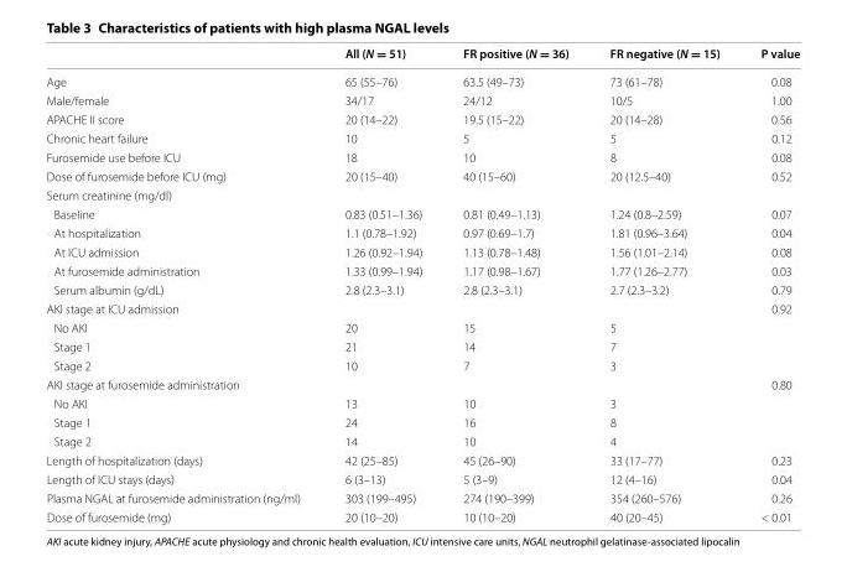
<table><thead><tr><td></td><td>All (N = 51)</td><td>FR positive (N = 36)</td><td>FR negative (N = 15)</td><td>P value</td></tr></thead><tbody><tr><td>Age</td><td>65 (55–76)</td><td>63.5 (49–73)</td><td>73 (61–78)</td><td>0.08</td></tr><tr><td>Male/female</td><td>34/17</td><td>24/12</td><td>10/5</td><td>1.00</td></tr><tr><td>APACHE II score</td><td>20 (14–22)</td><td>19.5 (15–22)</td><td>20 (14–28)</td><td>0.56</td></tr><tr><td>Chronic heart failure</td><td>10</td><td>5</td><td>5</td><td>0.12</td></tr><tr><td>Furosemide use before ICU</td><td>18</td><td>10</td><td>8</td><td>0.08</td></tr><tr><td>Dose of furosemide before ICU (mg)</td><td>20 (15–40)</td><td>40 (15–60)</td><td>20 (12.5–40)</td><td>0.52</td></tr><tr><td colspan="5">Serum creatinine (mg/dl)</td></tr><tr><td>Baseline</td><td>0.83 (0.51–1.36)</td><td>0.81 (0.49–1.13)</td><td>1.24 (0.8–2.59)</td><td>0.07</td></tr><tr><td>At hospitalization</td><td>1.1 (0.78–1.92)</td><td>0.97 (0.69–1.7)</td><td>1.81 (0.96–3.64)</td><td>0.04</td></tr><tr><td>At ICU admission</td><td>1.26 (0.92–1.94)</td><td>1.13 (0.78–1.48)</td><td>1.56 (1.01–2.14)</td><td>0.08</td></tr><tr><td>At furosemide administration</td><td>1.33 (0.99–1.94)</td><td>1.17 (0.98–1.67)</td><td>1.77 (1.26–2.77)</td><td>0.03</td></tr><tr><td>Serum albumin (g/dL)</td><td>2.8 (2.3–3.1)</td><td>2.8 (2.3–3.1)</td><td>2.7 (2.3–3.2)</td><td>0.79</td></tr><tr><td colspan="4">AKI stage at ICU admission</td><td>0.92</td></tr><tr><td>No AKI</td><td>20</td><td>15</td><td>5</td><td></td></tr><tr><td>Stage 1</td><td>21</td><td>14</td><td>7</td><td></td></tr><tr><td>Stage 2</td><td>10</td><td>7</td><td>3</td><td></td></tr><tr><td colspan="4">AKI stage at furosemide administration</td><td>0.80</td></tr><tr><td>No AKI</td><td>13</td><td>10</td><td>3</td><td></td></tr><tr><td>Stage 1</td><td>24</td><td>16</td><td>8</td><td></td></tr><tr><td>Stage 2</td><td>14</td><td>10</td><td>4</td><td></td></tr><tr><td>Length of hospitalization (days)</td><td>42 (25–85)</td><td>45 (26–90)</td><td>33 (17–77)</td><td>0.23</td></tr><tr><td>Length of ICU stays (days)</td><td>6 (3–13)</td><td>5 (3–9)</td><td>12 (4–16)</td><td>0.04</td></tr><tr><td>Plasma NGAL at furosemide administration (ng/ml)</td><td>303 (199–495)</td><td>274 (190–399)</td><td>354 (260–576)</td><td>0.26</td></tr><tr><td>Dose of furosemide (mg)</td><td>20 (10–20)</td><td>10 (10–20)</td><td>40 (20–45)</td><td>&lt; 0.01</td></tr></tbody></table>